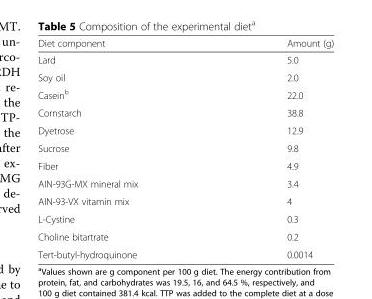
<table><thead><tr><td>Diet component</td><td>Amount (g)</td></tr></thead><tbody><tr><td>Lard</td><td>5.0</td></tr><tr><td>Soy oil</td><td>2.0</td></tr><tr><td>Casein<sup>b</sup></td><td>22.0</td></tr><tr><td>Cornstarch</td><td>38.8</td></tr><tr><td>Dyetrose</td><td>12.9</td></tr><tr><td>Sucrose</td><td>9.8</td></tr><tr><td>Fiber</td><td>4.9</td></tr><tr><td>AIN-93G-MX mineral mix</td><td>3.4</td></tr><tr><td>AIN-93-VX vitamin mix</td><td>4</td></tr><tr><td>L-Cystine</td><td>0.3</td></tr><tr><td>Choline bitartrate</td><td>0.2</td></tr><tr><td>Tert-butyl-hydroquinone</td><td>0.0014</td></tr></tbody></table>